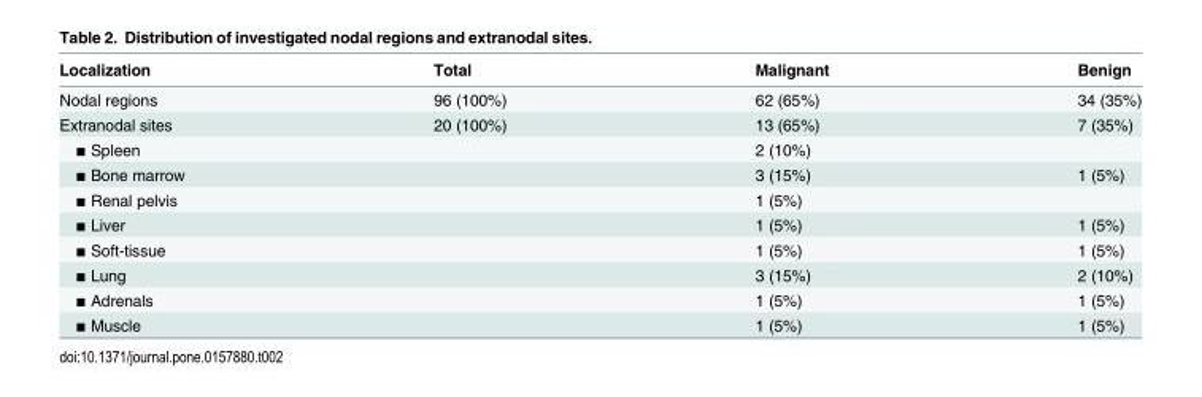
<table><thead><tr><td>Localization</td><td>Total</td><td>Malignant</td><td>Benign</td></tr></thead><tbody><tr><td>Nodal regions</td><td>96 (100%)</td><td>62 (65%)</td><td>34 (35%)</td></tr><tr><td>Extranodal sites</td><td>20 (100%)</td><td>13 (65%)</td><td>7 (35%)</td></tr><tr><td>▪ Spleen</td><td></td><td>2 (10%)</td><td></td></tr><tr><td>▪ Bone marrow</td><td></td><td>3 (15%)</td><td>1 (5%)</td></tr><tr><td>▪ Renal pelvis</td><td></td><td>1 (5%)</td><td></td></tr><tr><td>▪ Liver</td><td></td><td>1 (5%)</td><td>1 (5%)</td></tr><tr><td>▪ Soft-tissue</td><td></td><td>1 (5%)</td><td>1 (5%)</td></tr><tr><td>▪ Lung</td><td></td><td>3 (15%)</td><td>2 (10%)</td></tr><tr><td>▪ Adrenals</td><td></td><td>1 (5%)</td><td>1 (5%)</td></tr><tr><td>▪ Muscle</td><td></td><td>1 (5%)</td><td>1 (5%)</td></tr></tbody></table>